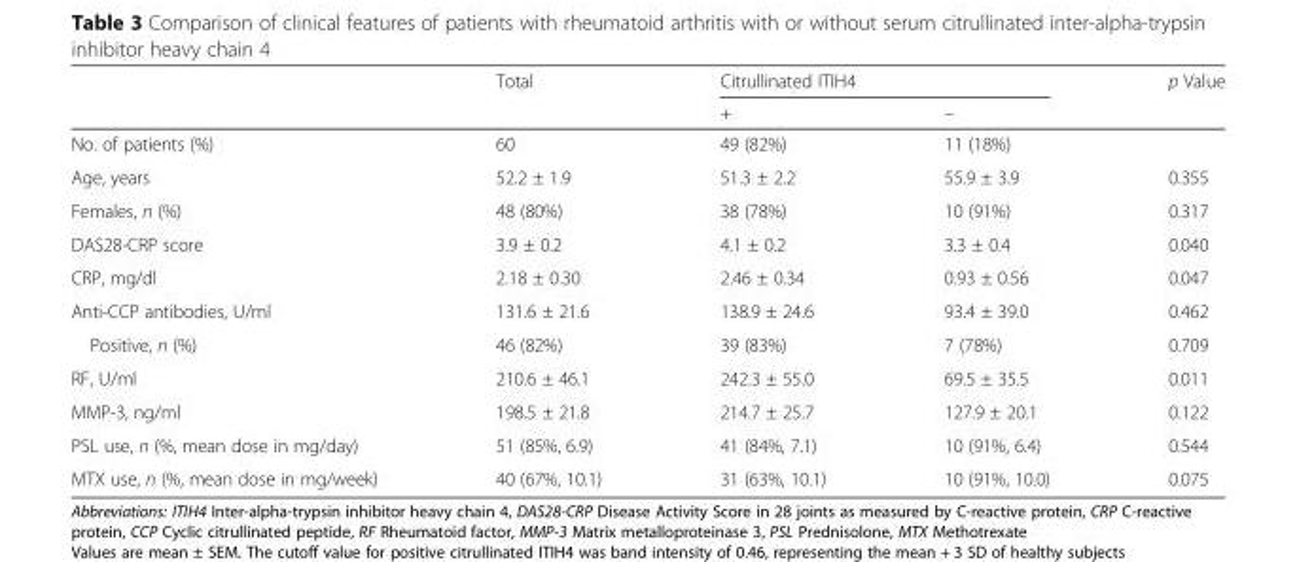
<table><thead><tr><td rowspan="2"></td><td rowspan="2">Total</td><td colspan="2">Citrullinated ITIH4</td><td rowspan="2">p Value</td></tr><tr><td>+</td><td>–</td></tr></thead><tbody><tr><td>No. of patients (%)</td><td>60</td><td>49 (82%)</td><td>11 (18%)</td><td></td></tr><tr><td>Age, years</td><td>52.2 ± 1.9</td><td>51.3 ± 2.2</td><td>55.9 ± 3.9</td><td>0.355</td></tr><tr><td>Females, n (%)</td><td>48 (80%)</td><td>38 (78%)</td><td>10 (91%)</td><td>0.317</td></tr><tr><td>DAS28-CRP score</td><td>3.9 ± 0.2</td><td>4.1 ± 0.2</td><td>3.3 ± 0.4</td><td>0.040</td></tr><tr><td>CRP, mg/dl</td><td>2.18 ± 0.30</td><td>2.46 ± 0.34</td><td>0.93 ± 0.56</td><td>0.047</td></tr><tr><td>Anti-CCP antibodies, U/ml</td><td>131.6 ± 21.6</td><td>138.9 ± 24.6</td><td>93.4 ± 39.0</td><td>0.462</td></tr><tr><td>Positive, n (%)</td><td>46 (82%)</td><td>39 (83%)</td><td>7 (78%)</td><td>0.709</td></tr><tr><td>RF, U/ml</td><td>210.6 ± 46.1</td><td>242.3 ± 55.0</td><td>69.5 ± 35.5</td><td>0.011</td></tr><tr><td>MMP-3, ng/ml</td><td>198.5 ± 21.8</td><td>214.7 ± 25.7</td><td>127.9 ± 20.1</td><td>0.122</td></tr><tr><td>PSL use, n (%, mean dose in mg/day)</td><td>51 (85%, 6.9)</td><td>41 (84%, 7.1)</td><td>10 (91%, 6.4)</td><td>0.544</td></tr><tr><td>MTX use, n (%, mean dose in mg/week)</td><td>40 (67%, 10.1)</td><td>31 (63%, 10.1)</td><td>10 (91%, 10.0)</td><td>0.075</td></tr></tbody></table>